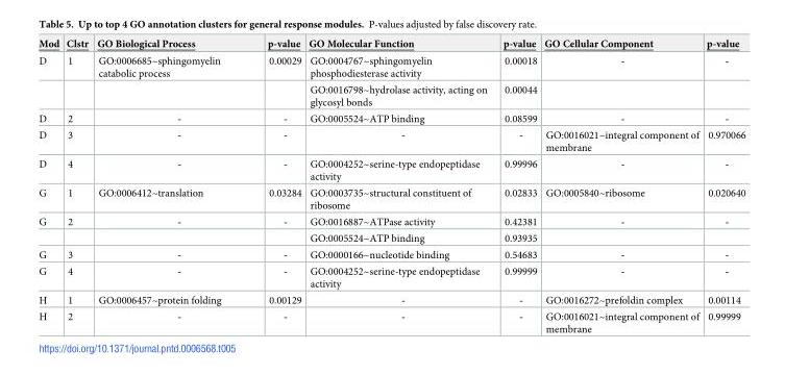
<table><thead><tr><td>Mod</td><td>Clstr</td><td>GO Biological Process</td><td>p-value</td><td>GO Molecular Function</td><td>p-value</td><td>GO Cellular Component</td><td>p-value</td></tr></thead><tbody><tr><td rowspan="2">D</td><td>1</td><td>GO:0006685~sphingomyelin catabolic process</td><td>0.00029</td><td>GO:0004767~sphingomyelin phosphodiesterase activity</td><td>0.00018</td><td>-</td><td>-</td></tr><tr><td></td><td></td><td></td><td>GO:0016798~hydrolase activity, acting on glycosyl bonds</td><td>0.00044</td><td></td><td></td></tr><tr><td>D</td><td>2</td><td>-</td><td>-</td><td>GO:0005524~ATP binding</td><td>0.08599</td><td>-</td><td>-</td></tr><tr><td>D</td><td>3</td><td>-</td><td>-</td><td>-</td><td>-</td><td>GO:0016021~integral component of membrane</td><td>0.970066</td></tr><tr><td>D</td><td>4</td><td>-</td><td>-</td><td>GO:0004252~serine-type endopeptidase activity</td><td>0.99996</td><td>-</td><td>-</td></tr><tr><td>G</td><td>1</td><td>GO:0006412~translation</td><td>0.03284</td><td>GO:0003735~structural constituent of ribosome</td><td>0.02833</td><td>GO:0005840~ribosome</td><td>0.020640</td></tr><tr><td rowspan="2">G</td><td>2</td><td>-</td><td>-</td><td>GO:0016887~ATPase activity</td><td>0.42381</td><td>-</td><td>-</td></tr><tr><td></td><td></td><td></td><td>GO:0005524~ATP binding</td><td>0.93935</td><td></td><td></td></tr><tr><td>G</td><td>3</td><td>-</td><td>-</td><td>GO:0000166~nucleotide binding</td><td>0.54683</td><td>-</td><td>-</td></tr><tr><td>G</td><td>4</td><td>-</td><td>-</td><td>GO:0004252~serine-type endopeptidase activity</td><td>0.99999</td><td>-</td><td>-</td></tr><tr><td>H</td><td>1</td><td>GO:0006457~protein folding</td><td>0.00129</td><td>-</td><td>-</td><td>GO:0016272~prefoldin complex</td><td>0.00114</td></tr><tr><td>H</td><td>2</td><td>-</td><td>-</td><td>-</td><td>-</td><td>GO:0016021~integral component of membrane</td><td>0.99999</td></tr></tbody></table>